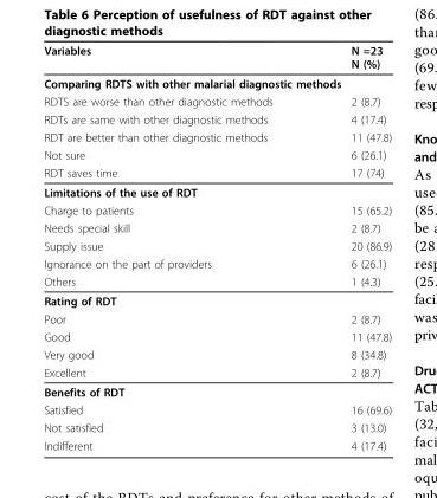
<table><thead><tr><td>Variables</td><td>N =23 N (%)</td></tr></thead><tbody><tr><td colspan="2">Comparing RDTS with other malarial diagnostic methods</td></tr><tr><td>RDTS are worse than other diagnostic methods</td><td>2 (8.7)</td></tr><tr><td>RDTs are same with other diagnostic methods</td><td>4 (17.4)</td></tr><tr><td>RDT are better than other diagnostic methods</td><td>11 (47.8)</td></tr><tr><td>Not sure</td><td>6 (26.1)</td></tr><tr><td>RDT saves time</td><td>17 (74)</td></tr><tr><td colspan="2">Limitations of the use of RDT</td></tr><tr><td>Charge to patients</td><td>15 (65.2)</td></tr><tr><td>Needs special skill</td><td>2 (8.7)</td></tr><tr><td>Supply issue</td><td>20 (86.9)</td></tr><tr><td>Ignorance on the part of providers</td><td>6 (26.1)</td></tr><tr><td>Others</td><td>1 (4.3)</td></tr><tr><td colspan="2">Rating of RDT</td></tr><tr><td>Poor</td><td>2 (8.7)</td></tr><tr><td>Good</td><td>11 (47.8)</td></tr><tr><td>Very good</td><td>8 (34.8)</td></tr><tr><td>Excellent</td><td>2 (8.7)</td></tr><tr><td colspan="2">Benefits of RDT</td></tr><tr><td>Satisfied</td><td>16 (69.6)</td></tr><tr><td>Not satisfied</td><td>3 (13.0)</td></tr><tr><td>Indifferent</td><td>4 (17.4)</td></tr></tbody></table>